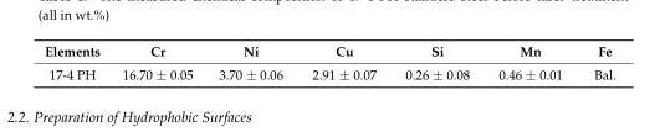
<table><thead><tr><td>Elements</td><td>Cr</td><td>Ni</td><td>Cu</td><td>Si</td><td>Mn</td><td>Fe</td></tr></thead><tbody><tr><td>17-4 PH</td><td>16.70 ± 0.05</td><td>3.70 ± 0.06</td><td>2.91 ± 0.07</td><td>0.26 ± 0.08</td><td>0.46 ± 0.01</td><td>Bal.</td></tr></tbody></table>